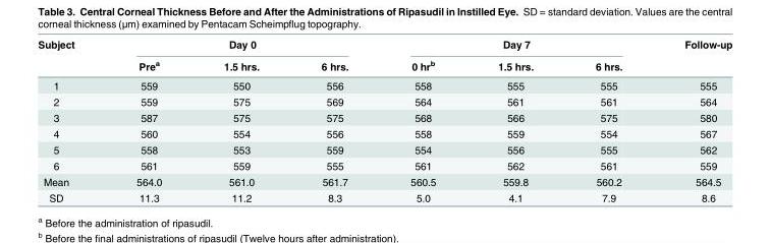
<table><thead><tr><td rowspan="2">Subject</td><td colspan="3">Day 0</td><td colspan="3">Day 7</td><td rowspan="2">Follow-up</td></tr><tr><td>Pre<sup>a</sup></td><td>1.5 hrs.</td><td>6 hrs.</td><td>0 hr<sup>b</sup></td><td>1.5 hrs.</td><td>6 hrs.</td></tr></thead><tbody><tr><td>1</td><td>559</td><td>550</td><td>556</td><td>558</td><td>555</td><td>555</td><td>555</td></tr><tr><td>2</td><td>559</td><td>575</td><td>569</td><td>564</td><td>561</td><td>561</td><td>564</td></tr><tr><td>3</td><td>587</td><td>575</td><td>575</td><td>568</td><td>566</td><td>575</td><td>580</td></tr><tr><td>4</td><td>560</td><td>554</td><td>556</td><td>558</td><td>559</td><td>554</td><td>567</td></tr><tr><td>5</td><td>558</td><td>553</td><td>559</td><td>554</td><td>556</td><td>555</td><td>562</td></tr><tr><td>6</td><td>561</td><td>559</td><td>555</td><td>561</td><td>562</td><td>561</td><td>559</td></tr><tr><td>Mean</td><td>564.0</td><td>561.0</td><td>561.7</td><td>560.5</td><td>559.8</td><td>560.2</td><td>564.5</td></tr><tr><td>SD</td><td>11.3</td><td>11.2</td><td>8.3</td><td>5.0</td><td>4.1</td><td>7.9</td><td>8.6</td></tr></tbody></table>